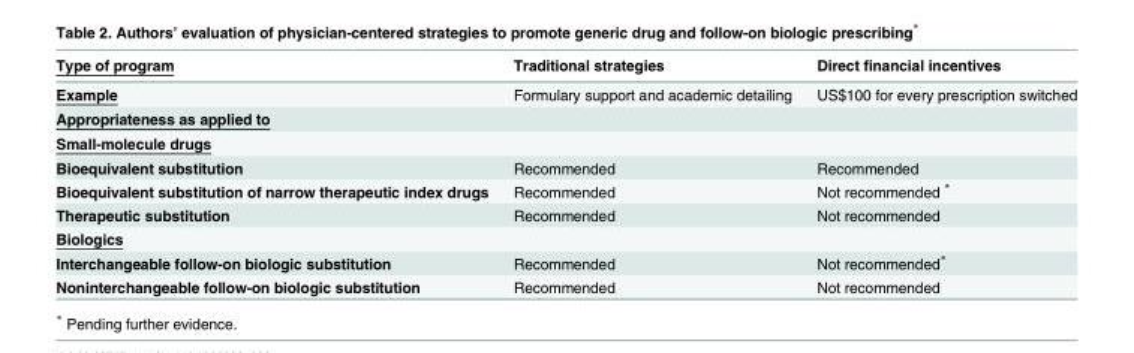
<table><thead><tr><td>Type of program</td><td>Traditional strategies</td><td>Direct financial incentives</td></tr></thead><tbody><tr><td>Example</td><td>Formulary support and academic detailing</td><td>US$100 for every prescription switched</td></tr><tr><td colspan="3">Appropriateness as applied to</td></tr><tr><td colspan="3">Small-molecule drugs</td></tr><tr><td>Bioequivalent substitution</td><td>Recommended</td><td>Recommended</td></tr><tr><td>Bioequivalent substitution of narrow therapeutic index drugs</td><td>Recommended</td><td>Not recommended *</td></tr><tr><td>Therapeutic substitution</td><td>Recommended</td><td>Not recommended</td></tr><tr><td colspan="3">Biologics</td></tr><tr><td>Interchangeable follow-on biologic substitution</td><td>Recommended</td><td>Not recommended*</td></tr><tr><td>Noninterchangeable follow-on biologic substitution</td><td>Recommended</td><td>Not recommended</td></tr></tbody></table>